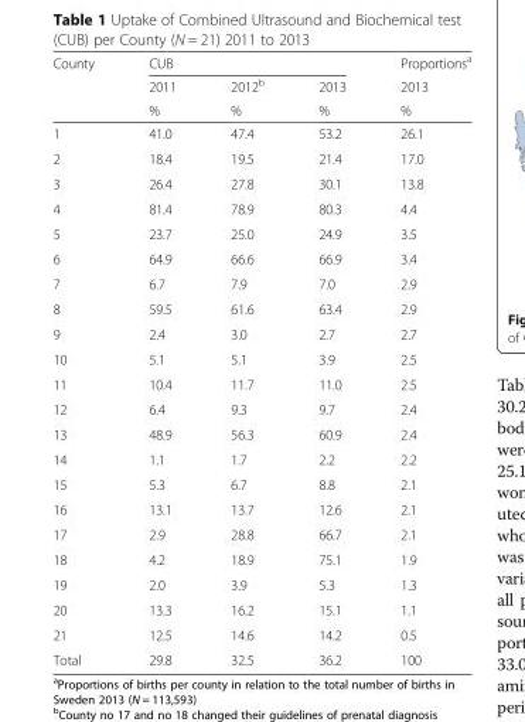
<table><thead><tr><td rowspan="3">County</td><td colspan="3">CUB</td><td rowspan="3">Proportions<sup>a</sup> 2013 %</td></tr><tr><td rowspan="2">2011 %</td><td rowspan="2">2012<sup>b</sup> %</td><td rowspan="2">2013 %</td></tr><tr></tr></thead><tbody><tr><td>1</td><td>41.0</td><td>47.4</td><td>53.2</td><td>26.1</td></tr><tr><td>2</td><td>18.4</td><td>19.5</td><td>21.4</td><td>17.0</td></tr><tr><td>3</td><td>26.4</td><td>27.8</td><td>30.1</td><td>13.8</td></tr><tr><td>4</td><td>81.4</td><td>78.9</td><td>80.3</td><td>4.4</td></tr><tr><td>5</td><td>23.7</td><td>25.0</td><td>24.9</td><td>3.5</td></tr><tr><td>6</td><td>64.9</td><td>66.6</td><td>66.9</td><td>3.4</td></tr><tr><td>7</td><td>6.7</td><td>7.9</td><td>7.0</td><td>2.9</td></tr><tr><td>8</td><td>59.5</td><td>61.6</td><td>63.4</td><td>2.9</td></tr><tr><td>9</td><td>2.4</td><td>3.0</td><td>2.7</td><td>2.7</td></tr><tr><td>10</td><td>5.1</td><td>5.1</td><td>3.9</td><td>2.5</td></tr><tr><td>11</td><td>10.4</td><td>11.7</td><td>11.0</td><td>2.5</td></tr><tr><td>12</td><td>6.4</td><td>9.3</td><td>9.7</td><td>2.4</td></tr><tr><td>13</td><td>48.9</td><td>56.3</td><td>60.9</td><td>2.4</td></tr><tr><td>14</td><td>1.1</td><td>1.7</td><td>2.2</td><td>2.2</td></tr><tr><td>15</td><td>5.3</td><td>6.7</td><td>8.8</td><td>2.1</td></tr><tr><td>16</td><td>13.1</td><td>13.7</td><td>12.6</td><td>2.1</td></tr><tr><td>17</td><td>2.9</td><td>28.8</td><td>66.7</td><td>2.1</td></tr><tr><td>18</td><td>4.2</td><td>18.9</td><td>75.1</td><td>1.9</td></tr><tr><td>19</td><td>2.0</td><td>3.9</td><td>5.3</td><td>1.3</td></tr><tr><td>20</td><td>13.3</td><td>16.2</td><td>15.1</td><td>1.1</td></tr><tr><td>21</td><td>12.5</td><td>14.6</td><td>14.2</td><td>0.5</td></tr><tr><td>Total</td><td>29.8</td><td>32.5</td><td>36.2</td><td>100</td></tr></tbody></table>